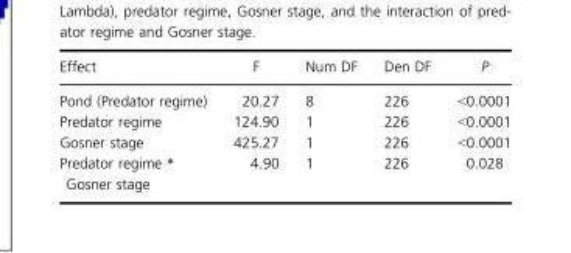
<table><thead><tr><td>Effect</td><td>F</td><td>Num DF</td><td>Den DF</td><td>P</td></tr></thead><tbody><tr><td>Pond (Predator regime)</td><td>20.27</td><td>8</td><td>226</td><td>&lt;0.0001</td></tr><tr><td>Predator regime</td><td>124.90</td><td>1</td><td>226</td><td>&lt;0.0001</td></tr><tr><td>Gosner stage</td><td>425.27</td><td>1</td><td>226</td><td>&lt;0.0001</td></tr><tr><td>Predator regime * Gosner stage</td><td>4.90</td><td>1</td><td>226</td><td>0.028</td></tr></tbody></table>